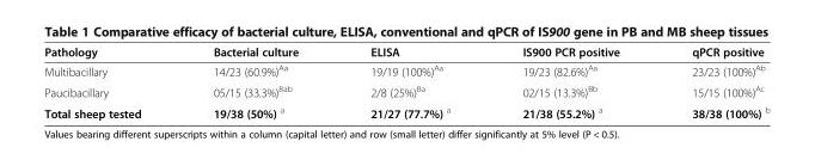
<table><thead><tr><td>Pathology</td><td>Bacterial culture</td><td>ELISA</td><td>IS900 PCR positive</td><td>qPCR positive</td></tr></thead><tbody><tr><td>Multibacillary</td><td>14/23 (60.9%)<sup>Aa</sup></td><td>19/19 (100%)<sup>Aa</sup></td><td>19/23 (82.6%)<sup>Aa</sup></td><td>23/23 (100%)<sup>Ab</sup></td></tr><tr><td>Paucibacillary</td><td>05/15 (33.3%)<sup>Bab</sup></td><td>2/8 (25%)<sup>Ba</sup></td><td>02/15 (13.3%)<sup>Bb</sup></td><td>15/15 (100%)<sup>Ac</sup></td></tr><tr><td>Total sheep tested</td><td>19/38 (50%) <sup>a</sup></td><td>21/27 (77.7%) <sup>a</sup></td><td>21/38 (55.2%) <sup>a</sup></td><td>38/38 (100%) <sup>b</sup></td></tr></tbody></table>